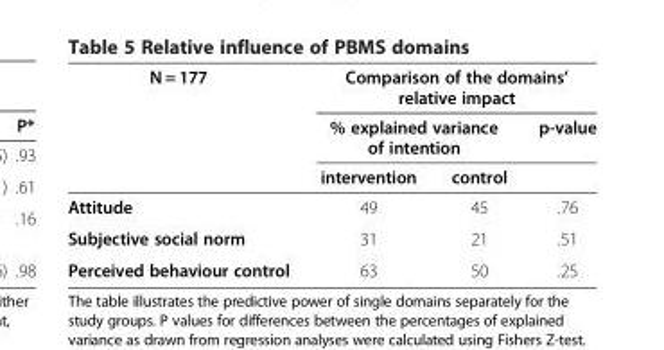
<table><thead><tr><td rowspan="3">N = 177</td><td colspan="3">Comparison of the domains’ relative impact</td></tr><tr><td colspan="2">% explained variance of intention</td><td rowspan="2">p-value</td></tr><tr><td>intervention</td><td>control</td></tr></thead><tbody><tr><td>Attitude</td><td>49</td><td>45</td><td>.76</td></tr><tr><td>Subjective social norm</td><td>31</td><td>21</td><td>.51</td></tr><tr><td>Perceived behaviour control</td><td>63</td><td>50</td><td>.25</td></tr></tbody></table>